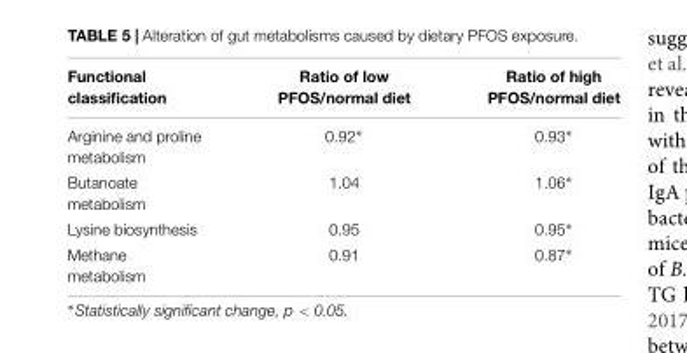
<table><thead><tr><td>Functional classification</td><td>Ratio of low PFOS/normal diet</td><td>Ratio of high PFOS/normal diet</td></tr></thead><tbody><tr><td>Arginine and proline metabolism</td><td>0.92∗</td><td>0.93∗</td></tr><tr><td>Butanoate metabolism</td><td>1.04</td><td>1.06∗</td></tr><tr><td>Lysine biosynthesis</td><td>0.95</td><td>0.95∗</td></tr><tr><td>Methane metabolism</td><td>0.91</td><td>0.87∗</td></tr></tbody></table>